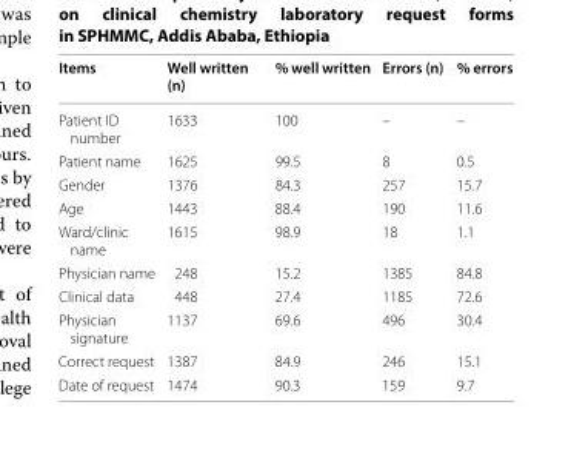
<table><thead><tr><td>Items</td><td>Well written (n)</td><td>% well written</td><td>Errors (n)</td><td>% errors</td></tr></thead><tbody><tr><td>Patient ID number</td><td>1633</td><td>100</td><td>–</td><td>–</td></tr><tr><td>Patient name</td><td>1625</td><td>99.5</td><td>8</td><td>0.5</td></tr><tr><td>Gender</td><td>1376</td><td>84.3</td><td>257</td><td>15.7</td></tr><tr><td>Age</td><td>1443</td><td>88.4</td><td>190</td><td>11.6</td></tr><tr><td>Ward/clinic name</td><td>1615</td><td>98.9</td><td>18</td><td>1.1</td></tr><tr><td>Physician name</td><td>248</td><td>15.2</td><td>1385</td><td>84.8</td></tr><tr><td>Clinical data</td><td>448</td><td>27.4</td><td>1185</td><td>72.6</td></tr><tr><td>Physician signature</td><td>1137</td><td>69.6</td><td>496</td><td>30.4</td></tr><tr><td>Correct request</td><td>1387</td><td>84.9</td><td>246</td><td>15.1</td></tr><tr><td>Date of request</td><td>1474</td><td>90.3</td><td>159</td><td>9.7</td></tr></tbody></table>